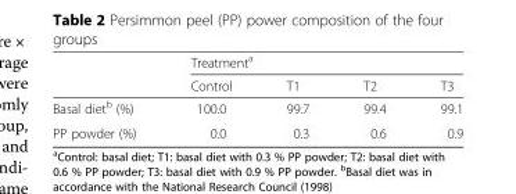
<table><thead><tr><td rowspan="2"></td><td colspan="4">Treatment<sup>a</sup></td></tr><tr><td>Control</td><td>T1</td><td>T2</td><td>T3</td></tr></thead><tbody><tr><td>Basal diet<sup>b</sup> (%)</td><td>100.0</td><td>99.7</td><td>99.4</td><td>99.1</td></tr><tr><td>PP powder (%)</td><td>0.0</td><td>0.3</td><td>0.6</td><td>0.9</td></tr></tbody></table>